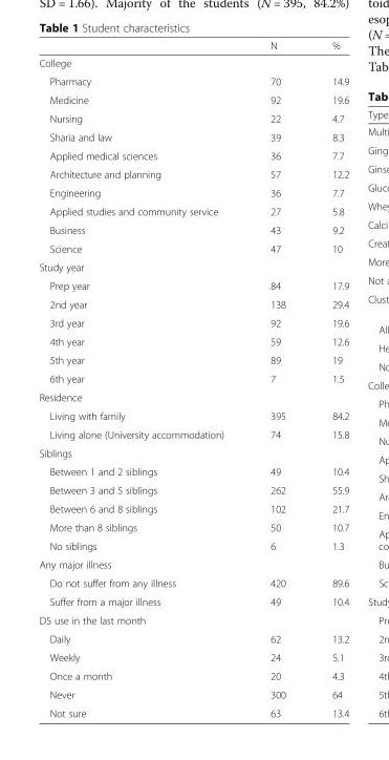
<table><thead><tr><td></td><td>N</td><td>%</td></tr></thead><tbody><tr><td colspan="3">College</td></tr><tr><td>Pharmacy</td><td>70</td><td>14.9</td></tr><tr><td>Medicine</td><td>92</td><td>19.6</td></tr><tr><td>Nursing</td><td>22</td><td>4.7</td></tr><tr><td>Sharia and law</td><td>39</td><td>8.3</td></tr><tr><td>Applied medical sciences</td><td>36</td><td>7.7</td></tr><tr><td>Architecture and planning</td><td>57</td><td>12.2</td></tr><tr><td>Engineering</td><td>36</td><td>7.7</td></tr><tr><td>Applied studies and community service</td><td>27</td><td>5.8</td></tr><tr><td>Business</td><td>43</td><td>9.2</td></tr><tr><td>Science</td><td>47</td><td>10</td></tr><tr><td colspan="3">Study year</td></tr><tr><td>Prep year</td><td>84</td><td>17.9</td></tr><tr><td>2nd year</td><td>138</td><td>29.4</td></tr><tr><td>3rd year</td><td>92</td><td>19.6</td></tr><tr><td>4th year</td><td>59</td><td>12.6</td></tr><tr><td>5th year</td><td>89</td><td>19</td></tr><tr><td>6th year</td><td>7</td><td>1.5</td></tr><tr><td colspan="3">Residence</td></tr><tr><td>Living with family</td><td>395</td><td>84.2</td></tr><tr><td>Living alone (University accommodation)</td><td>74</td><td>15.8</td></tr><tr><td colspan="3">Siblings</td></tr><tr><td>Between 1 and 2 siblings</td><td>49</td><td>10.4</td></tr><tr><td>Between 3 and 5 siblings</td><td>262</td><td>55.9</td></tr><tr><td>Between 6 and 8 siblings</td><td>102</td><td>21.7</td></tr><tr><td>More than 8 siblings</td><td>50</td><td>10.7</td></tr><tr><td>No siblings</td><td>6</td><td>1.3</td></tr><tr><td colspan="3">Any major illness</td></tr><tr><td>Do not suffer from any illness</td><td>420</td><td>89.6</td></tr><tr><td>Suffer from a major illness</td><td>49</td><td>10.4</td></tr><tr><td colspan="3">DS use in the last month</td></tr><tr><td>Daily</td><td>62</td><td>13.2</td></tr><tr><td>Weekly</td><td>24</td><td>5.1</td></tr><tr><td>Once a month</td><td>20</td><td>4.3</td></tr><tr><td>Never</td><td>300</td><td>64</td></tr><tr><td>Not sure</td><td>63</td><td>13.4</td></tr></tbody></table>